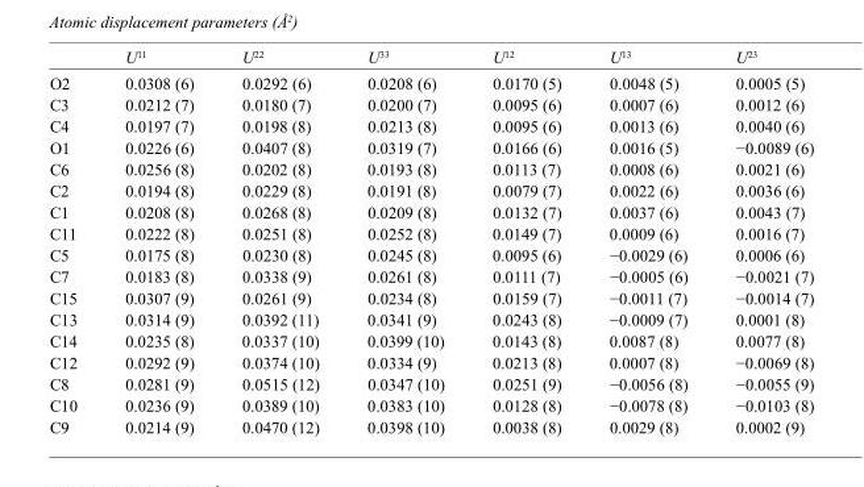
<table><thead><tr><td></td><td>U<sup>11</sup></td><td>U<sup>22</sup></td><td>U<sup>33</sup></td><td>U<sup>12</sup></td><td>U<sup>13</sup></td><td>U<sup>23</sup></td></tr></thead><tbody><tr><td>O2</td><td>0.0308 (6)</td><td>0.0292 (6)</td><td>0.0208 (6)</td><td>0.0170 (5)</td><td>0.0048 (5)</td><td>0.0005 (5)</td></tr><tr><td>C3</td><td>0.0212 (7)</td><td>0.0180 (7)</td><td>0.0200 (7)</td><td>0.0095 (6)</td><td>0.0007 (6)</td><td>0.0012 (6)</td></tr><tr><td>C4</td><td>0.0197 (7)</td><td>0.0198 (8)</td><td>0.0213 (8)</td><td>0.0095 (6)</td><td>0.0013 (6)</td><td>0.0040 (6)</td></tr><tr><td>O1</td><td>0.0226 (6)</td><td>0.0407 (8)</td><td>0.0319 (7)</td><td>0.0166 (6)</td><td>0.0016 (5)</td><td>−0.0089 (6)</td></tr><tr><td>C6</td><td>0.0256 (8)</td><td>0.0202 (8)</td><td>0.0193 (8)</td><td>0.0113 (7)</td><td>0.0008 (6)</td><td>0.0021 (6)</td></tr><tr><td>C2</td><td>0.0194 (8)</td><td>0.0229 (8)</td><td>0.0191 (8)</td><td>0.0079 (7)</td><td>0.0022 (6)</td><td>0.0036 (6)</td></tr><tr><td>C1</td><td>0.0208 (8)</td><td>0.0268 (8)</td><td>0.0209 (8)</td><td>0.0132 (7)</td><td>0.0037 (6)</td><td>0.0043 (7)</td></tr><tr><td>C11</td><td>0.0222 (8)</td><td>0.0251 (8)</td><td>0.0252 (8)</td><td>0.0149 (7)</td><td>0.0009 (6)</td><td>0.0016 (7)</td></tr><tr><td>C5</td><td>0.0175 (8)</td><td>0.0230 (8)</td><td>0.0245 (8)</td><td>0.0095 (6)</td><td>−0.0029 (6)</td><td>0.0006 (6)</td></tr><tr><td>C7</td><td>0.0183 (8)</td><td>0.0338 (9)</td><td>0.0261 (8)</td><td>0.0111 (7)</td><td>−0.0005 (6)</td><td>−0.0021 (7)</td></tr><tr><td>C15</td><td>0.0307 (9)</td><td>0.0261 (9)</td><td>0.0234 (8)</td><td>0.0159 (7)</td><td>−0.0011 (7)</td><td>−0.0014 (7)</td></tr><tr><td>C13</td><td>0.0314 (9)</td><td>0.0392 (11)</td><td>0.0341 (9)</td><td>0.0243 (8)</td><td>−0.0009 (7)</td><td>0.0001 (8)</td></tr><tr><td>C14</td><td>0.0235 (8)</td><td>0.0337 (10)</td><td>0.0399 (10)</td><td>0.0143 (8)</td><td>0.0087 (8)</td><td>0.0077 (8)</td></tr><tr><td>C12</td><td>0.0292 (9)</td><td>0.0374 (10)</td><td>0.0334 (9)</td><td>0.0213 (8)</td><td>0.0007 (8)</td><td>−0.0069 (8)</td></tr><tr><td>C8</td><td>0.0281 (9)</td><td>0.0515 (12)</td><td>0.0347 (10)</td><td>0.0251 (9)</td><td>−0.0056 (8)</td><td>−0.0055 (9)</td></tr><tr><td>C10</td><td>0.0236 (9)</td><td>0.0389 (10)</td><td>0.0383 (10)</td><td>0.0128 (8)</td><td>−0.0078 (8)</td><td>−0.0103 (8)</td></tr><tr><td>C9</td><td>0.0214 (9)</td><td>0.0470 (12)</td><td>0.0398 (10)</td><td>0.0038 (8)</td><td>0.0029 (8)</td><td>0.0002 (9)</td></tr></tbody></table>